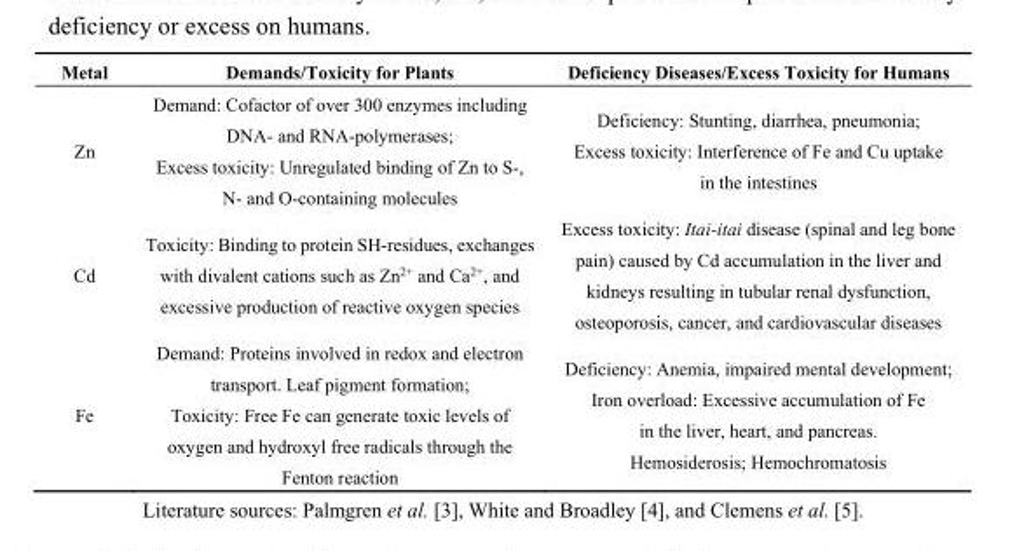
<table><thead><tr><td>Metal</td><td>Demands/Toxicity for Plants</td><td>Deficiency Diseases/Excess Toxicity for Humans</td></tr></thead><tbody><tr><td>Zn</td><td>Demand: Cofactor of over 300 enzymes including DNA- and RNA-polymerases; Excess toxicity: Unregulated binding of Zn to S-, N- and O-containing molecules</td><td>Deficiency: Stunting, diarrhea, pneumonia; Excess toxicity: Interference of Fe and Cu uptake in the intestines</td></tr><tr><td>Cd</td><td>Toxicity: Binding to protein SH-residues, exchanges with divalent cations such as Zn<sup>2+</sup> and Ca<sup>2+</sup>, and excessive production of reactive oxygen species</td><td>Excess toxicity: Itai-itai disease (spinal and leg bone pain) caused by Cd accumulation in the liver and kidneys resulting in tubular renal dysfunction, osteoporosis, cancer, and cardiovascular diseases</td></tr><tr><td>Fe</td><td>Demand: Proteins involved in redox and electron transport. Leaf pigment formation; Toxicity: Free Fe can generate toxic levels of oxygen and hydroxyl free radicals through the Fenton reaction</td><td>Deficiency: Anemia, impaired mental development; Iron overload: Excessive accumulation of Fe in the liver, heart, and pancreas. Hemosiderosis; Hemochromatosis</td></tr></tbody></table>